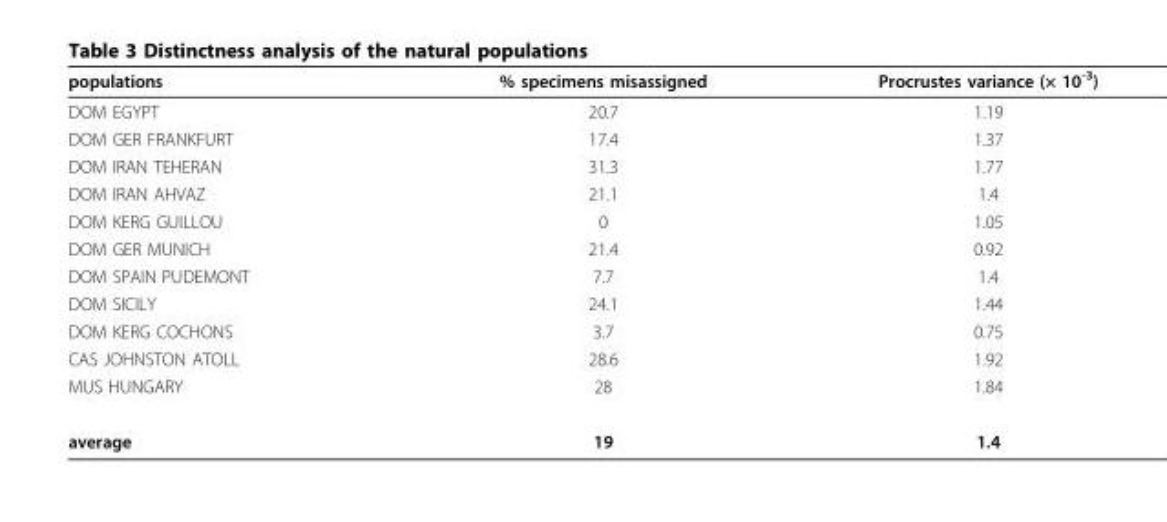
<table><thead><tr><td>populations</td><td>% specimens misassigned</td><td>Procrustes variance (× 10<sup>-3</sup>)</td></tr></thead><tbody><tr><td>DOM EGYPT</td><td>20.7</td><td>1.19</td></tr><tr><td>DOM GER FRANKFURT</td><td>17.4</td><td>1.37</td></tr><tr><td>DOM IRAN TEHERAN</td><td>31.3</td><td>1.77</td></tr><tr><td>DOM IRAN AHVAZ</td><td>21.1</td><td>1.4</td></tr><tr><td>DOM KERG GUILLOU</td><td>0</td><td>1.05</td></tr><tr><td>DOM GER MUNICH</td><td>21.4</td><td>0.92</td></tr><tr><td>DOM SPAIN PUDEMONT</td><td>7.7</td><td>1.4</td></tr><tr><td>DOM SICILY</td><td>24.1</td><td>1.44</td></tr><tr><td>DOM KERG COCHONS</td><td>3.7</td><td>0.75</td></tr><tr><td>CAS JOHNSTON ATOLL</td><td>28.6</td><td>1.92</td></tr><tr><td>MUS HUNGARY</td><td>28</td><td>1.84</td></tr><tr><td>average</td><td>19</td><td>1.4</td></tr></tbody></table>